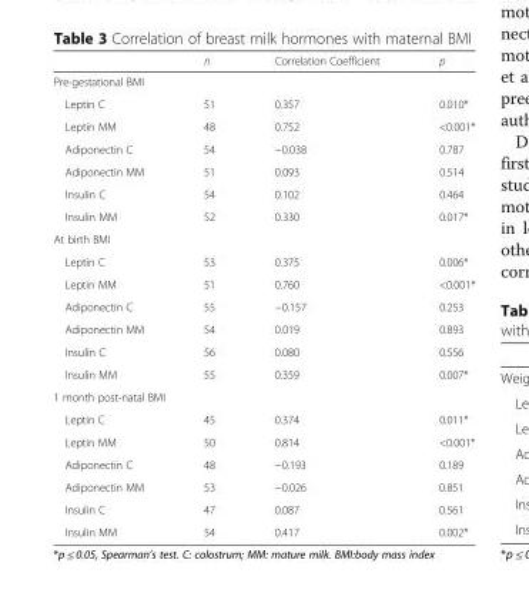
<table><thead><tr><td></td><td>n</td><td>Correlation Coefficient</td><td>p</td></tr></thead><tbody><tr><td colspan="4">Pre-gestational BMI</td></tr><tr><td>Leptin C</td><td>51</td><td>0.357</td><td>0.010*</td></tr><tr><td>Leptin MM</td><td>48</td><td>0.752</td><td>&lt;0.001*</td></tr><tr><td>Adiponectin C</td><td>54</td><td>−0.038</td><td>0.787</td></tr><tr><td>Adiponectin MM</td><td>51</td><td>0.093</td><td>0.514</td></tr><tr><td>Insulin C</td><td>54</td><td>0.102</td><td>0.464</td></tr><tr><td>Insulin MM</td><td>52</td><td>0.330</td><td>0.017*</td></tr><tr><td colspan="4">At birth BMI</td></tr><tr><td>Leptin C</td><td>53</td><td>0.375</td><td>0.006*</td></tr><tr><td>Leptin MM</td><td>51</td><td>0.760</td><td>&lt;0.001*</td></tr><tr><td>Adiponectin C</td><td>55</td><td>−0.157</td><td>0.253</td></tr><tr><td>Adiponectin MM</td><td>54</td><td>0.019</td><td>0.893</td></tr><tr><td>Insulin C</td><td>56</td><td>0.080</td><td>0.556</td></tr><tr><td>Insulin MM</td><td>55</td><td>0.359</td><td>0.007*</td></tr><tr><td colspan="4">1 month post-natal BMI</td></tr><tr><td>Leptin C</td><td>45</td><td>0.374</td><td>0.011*</td></tr><tr><td>Leptin MM</td><td>50</td><td>0.814</td><td>&lt;0.001*</td></tr><tr><td>Adiponectin C</td><td>48</td><td>−0.193</td><td>0.189</td></tr><tr><td>Adiponectin MM</td><td>53</td><td>−0.026</td><td>0.851</td></tr><tr><td>Insulin C</td><td>47</td><td>0.087</td><td>0.561</td></tr><tr><td>Insulin MM</td><td>54</td><td>0.417</td><td>0.002*</td></tr></tbody></table>